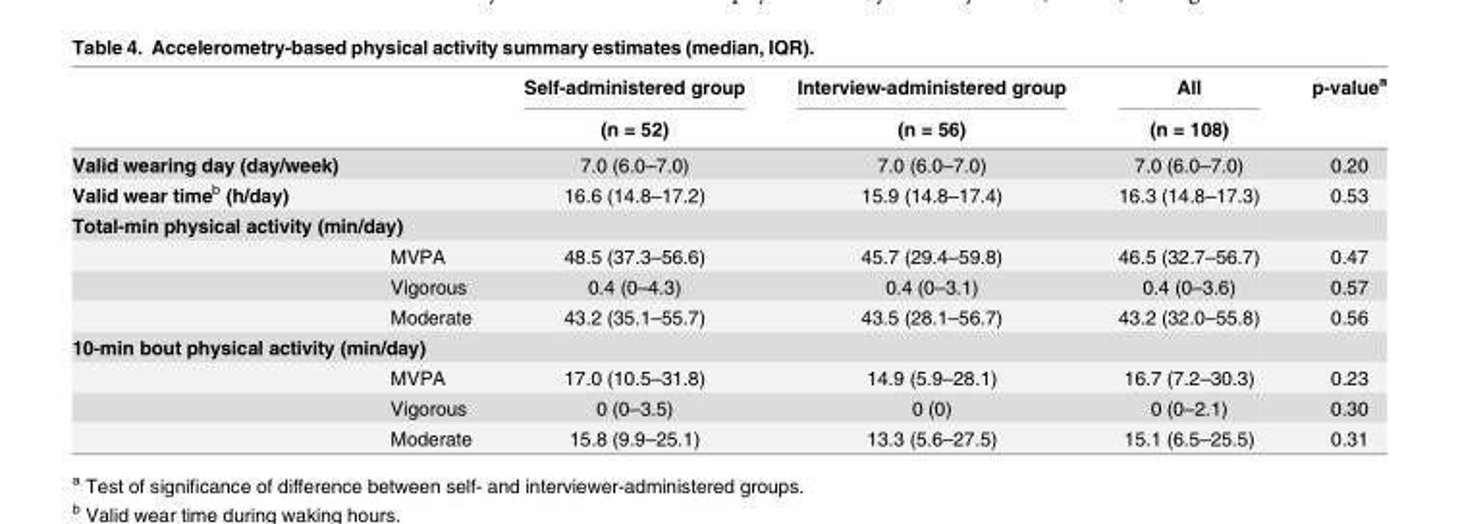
<table><thead><tr><td rowspan="2"></td><td rowspan="2"></td><td rowspan="2">Self-administered group (n = 52)</td><td rowspan="2">Interview-administered group (n = 56)</td><td rowspan="2">All (n = 108)</td><td rowspan="2">p-value<sup>a</sup></td></tr><tr></tr></thead><tbody><tr><td>Valid wearing day (day/week)</td><td></td><td>7.0 (6.0–7.0)</td><td>7.0 (6.0–7.0)</td><td>7.0 (6.0–7.0)</td><td>0.20</td></tr><tr><td>Valid wear time<sup>b</sup> (h/day)</td><td></td><td>16.6 (14.8–17.2)</td><td>15.9 (14.8–17.4)</td><td>16.3 (14.8–17.3)</td><td>0.53</td></tr><tr><td colspan="6">Total-min physical activity (min/day)</td></tr><tr><td></td><td>MVPA</td><td>48.5 (37.3–56.6)</td><td>45.7 (29.4–59.8)</td><td>46.5 (32.7–56.7)</td><td>0.47</td></tr><tr><td></td><td>Vigorous</td><td>0.4 (0–4.3)</td><td>0.4 (0–3.1)</td><td>0.4 (0–3.6)</td><td>0.57</td></tr><tr><td></td><td>Moderate</td><td>43.2 (35.1–55.7)</td><td>43.5 (28.1–56.7)</td><td>43.2 (32.0–55.8)</td><td>0.56</td></tr><tr><td colspan="6">10-min bout physical activity (min/day)</td></tr><tr><td></td><td>MVPA</td><td>17.0 (10.5–31.8)</td><td>14.9 (5.9–28.1)</td><td>16.7 (7.2–30.3)</td><td>0.23</td></tr><tr><td></td><td>Vigorous</td><td>0 (0–3.5)</td><td>0 (0)</td><td>0 (0–2.1)</td><td>0.30</td></tr><tr><td></td><td>Moderate</td><td>15.8 (9.9–25.1)</td><td>13.3 (5.6–27.5)</td><td>15.1 (6.5–25.5)</td><td>0.31</td></tr></tbody></table>